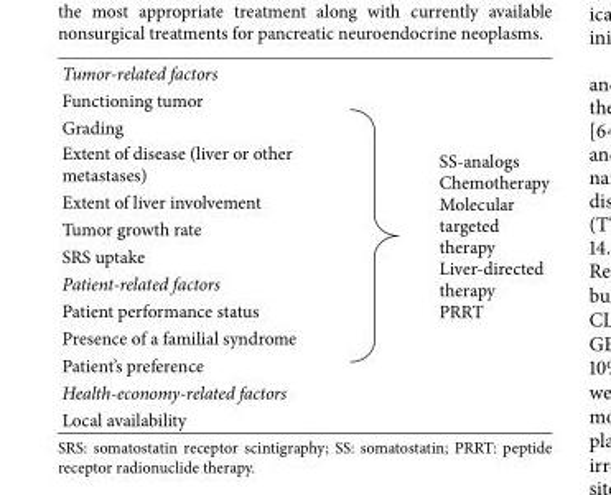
<table><tbody><tr><td colspan="2">Tumor-related factors</td></tr><tr><td>Functioning tumor</td><td rowspan="10">SS-analogs Chemotherapy Molecular targeted therapy Liver-directed therapy PRRT</td></tr><tr><td>Grading</td></tr><tr><td>Extent of disease (liver or other metastases)</td></tr><tr><td>Extent of liver involvement</td></tr><tr><td>Tumor growth rate</td></tr><tr><td>SRS uptake</td></tr><tr><td>Patient-related factors</td></tr><tr><td>Patient performance status</td></tr><tr><td>Presence of a familial syndrome</td></tr><tr><td>Patient’s preference</td></tr><tr><td colspan="2">Health-economy-related factors</td></tr><tr><td>Local availability</td><td></td></tr></tbody></table>